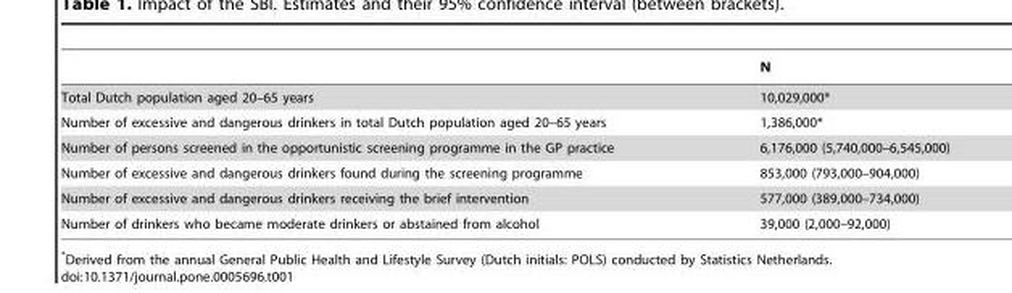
<table><thead><tr><td></td><td>N</td></tr></thead><tbody><tr><td>Total Dutch population aged 20–65 years</td><td>10,029,000*</td></tr><tr><td>Number of excessive and dangerous drinkers in total Dutch population aged 20–65 years</td><td>1,386,000*</td></tr><tr><td>Number of persons screened in the opportunistic screening programme in the GP practice</td><td>6,176,000 (5,740,000–6,545,000)</td></tr><tr><td>Number of excessive and dangerous drinkers found during the screening programme</td><td>853,000 (793,000–904,000)</td></tr><tr><td>Number of excessive and dangerous drinkers receiving the brief intervention</td><td>577,000 (389,000–734,000)</td></tr><tr><td>Number of drinkers who became moderate drinkers or abstained from alcohol</td><td>39,000 (2,000–92,000)</td></tr></tbody></table>